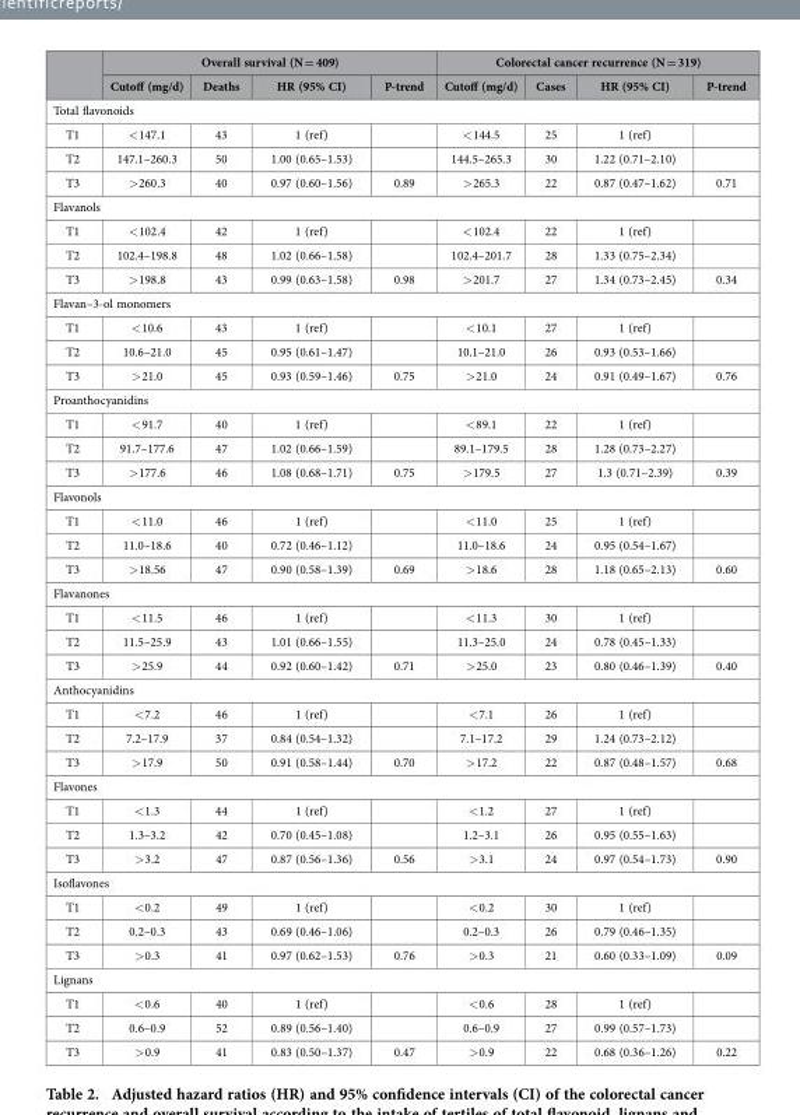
<table><thead><tr><td rowspan="2"></td><td colspan="4">Overall survival (N = 409)</td><td colspan="4">Colorectal cancer recurrence (N = 319)</td></tr><tr><td>Cutoff (mg/d)</td><td>Deaths</td><td>HR (95% CI)</td><td>P-trend</td><td>Cutoff (mg/d)</td><td>Cases</td><td>HR (95% CI)</td><td>P-trend</td></tr></thead><tbody><tr><td colspan="9">Total flavonoids</td></tr><tr><td>T1</td><td>&lt; 147.1</td><td>43</td><td>1 (ref)</td><td></td><td>&lt; 144.5</td><td>25</td><td>1 (ref)</td><td></td></tr><tr><td>T2</td><td>147.1–260.3</td><td>50</td><td>1.00 (0.65–1.53)</td><td></td><td>144.5–265.3</td><td>30</td><td>1.22 (0.71–2.10)</td><td></td></tr><tr><td>T3</td><td>&gt; 260.3</td><td>40</td><td>0.97 (0.60–1.56)</td><td>0.89</td><td>&gt; 265.3</td><td>22</td><td>0.87 (0.47–1.62)</td><td>0.71</td></tr><tr><td colspan="9">Flavanols</td></tr><tr><td>T1</td><td>&lt; 102.4</td><td>42</td><td>1 (ref)</td><td></td><td>&lt; 102.4</td><td>22</td><td>1 (ref)</td><td></td></tr><tr><td>T2</td><td>102.4–198.8</td><td>48</td><td>1.02 (0.66–1.58)</td><td></td><td>102.4–201.7</td><td>28</td><td>1.33 (0.75–2.34)</td><td></td></tr><tr><td>T3</td><td>&gt; 198.8</td><td>43</td><td>0.99 (0.63–1.58)</td><td>0.98</td><td>&gt; 201.7</td><td>27</td><td>1.34 (0.73–2.45)</td><td>0.34</td></tr><tr><td colspan="9">Flavan–3-ol monomers</td></tr><tr><td>T1</td><td>&lt; 10.6</td><td>43</td><td>1 (ref)</td><td></td><td>&lt; 10.1</td><td>27</td><td>1 (ref)</td><td></td></tr><tr><td>T2</td><td>10.6–21.0</td><td>45</td><td>0.95 (0.61–1.47)</td><td></td><td>10.1–21.0</td><td>26</td><td>0.93 (0.53–1.66)</td><td></td></tr><tr><td>T3</td><td>&gt; 21.0</td><td>45</td><td>0.93 (0.59–1.46)</td><td>0.75</td><td>&gt; 21.0</td><td>24</td><td>0.91 (0.49–1.67)</td><td>0.76</td></tr><tr><td colspan="9">Proanthocyanidins</td></tr><tr><td>T1</td><td>&lt; 91.7</td><td>40</td><td>1 (ref)</td><td></td><td>&lt; 89.1</td><td>22</td><td>1 (ref)</td><td></td></tr><tr><td>T2</td><td>91.7–177.6</td><td>47</td><td>1.02 (0.66–1.59)</td><td></td><td>89.1–179.5</td><td>28</td><td>1.28 (0.73–2.27)</td><td></td></tr><tr><td>T3</td><td>&gt; 177.6</td><td>46</td><td>1.08 (0.68–1.71)</td><td>0.75</td><td>&gt; 179.5</td><td>27</td><td>1.3 (0.71–2.39)</td><td>0.39</td></tr><tr><td colspan="9">Flavonols</td></tr><tr><td>T1</td><td>&lt; 11.0</td><td>46</td><td>1 (ref)</td><td></td><td>&lt; 11.0</td><td>25</td><td>1 (ref)</td><td></td></tr><tr><td>T2</td><td>11.0–18.6</td><td>40</td><td>0.72 (0.46–1.12)</td><td></td><td>11.0–18.6</td><td>24</td><td>0.95 (0.54–1.67)</td><td></td></tr><tr><td>T3</td><td>&gt; 18.56</td><td>47</td><td>0.90 (0.58–1.39)</td><td>0.69</td><td>&gt; 18.6</td><td>28</td><td>1.18 (0.65–2.13)</td><td>0.60</td></tr><tr><td colspan="9">Flavanones</td></tr><tr><td>T1</td><td>&lt; 11.5</td><td>46</td><td>1 (ref)</td><td></td><td>&lt; 11.3</td><td>30</td><td>1 (ref)</td><td></td></tr><tr><td>T2</td><td>11.5–25.9</td><td>43</td><td>1.01 (0.66–1.55)</td><td></td><td>11.3–25.0</td><td>24</td><td>0.78 (0.45–1.33)</td><td></td></tr><tr><td>T3</td><td>&gt; 25.9</td><td>44</td><td>0.92 (0.60–1.42)</td><td>0.71</td><td>&gt; 25.0</td><td>23</td><td>0.80 (0.46–1.39)</td><td>0.40</td></tr><tr><td colspan="9">Anthocyanidins</td></tr><tr><td>T1</td><td>&lt; 7.2</td><td>46</td><td>1 (ref)</td><td></td><td>&lt; 7.1</td><td>26</td><td>1 (ref)</td><td></td></tr><tr><td>T2</td><td>7.2–17.9</td><td>37</td><td>0.84 (0.54–1.32)</td><td></td><td>7.1–17.2</td><td>29</td><td>1.24 (0.73–2.12)</td><td></td></tr><tr><td>T3</td><td>&gt; 17.9</td><td>50</td><td>0.91 (0.58–1.44)</td><td>0.70</td><td>&gt; 17.2</td><td>22</td><td>0.87 (0.48–1.57)</td><td>0.68</td></tr><tr><td colspan="9">Flavones</td></tr><tr><td>T1</td><td>&lt; 1.3</td><td>44</td><td>1 (ref)</td><td></td><td>&lt; 1.2</td><td>27</td><td>1 (ref)</td><td></td></tr><tr><td>T2</td><td>1.3–3.2</td><td>42</td><td>0.70 (0.45–1.08)</td><td></td><td>1.2–3.1</td><td>26</td><td>0.95 (0.55–1.63)</td><td></td></tr><tr><td>T3</td><td>&gt; 3.2</td><td>47</td><td>0.87 (0.56–1.36)</td><td>0.56</td><td>&gt; 3.1</td><td>24</td><td>0.97 (0.54–1.73)</td><td>0.90</td></tr><tr><td colspan="9">Isoflavones</td></tr><tr><td>T1</td><td>&lt; 0.2</td><td>49</td><td>1 (ref)</td><td></td><td>&lt; 0.2</td><td>30</td><td>1 (ref)</td><td></td></tr><tr><td>T2</td><td>0.2–0.3</td><td>43</td><td>0.69 (0.46–1.06)</td><td></td><td>0.2–0.3</td><td>26</td><td>0.79 (0.46–1.35)</td><td></td></tr><tr><td>T3</td><td>&gt; 0.3</td><td>41</td><td>0.97 (0.62–1.53)</td><td>0.76</td><td>&gt; 0.3</td><td>21</td><td>0.60 (0.33–1.09)</td><td>0.09</td></tr><tr><td colspan="9">Lignans</td></tr><tr><td>T1</td><td>&lt; 0.6</td><td>40</td><td>1 (ref)</td><td></td><td>&lt; 0.6</td><td>28</td><td>1 (ref)</td><td></td></tr><tr><td>T2</td><td>0.6–0.9</td><td>52</td><td>0.89 (0.56–1.40)</td><td></td><td>0.6–0.9</td><td>27</td><td>0.99 (0.57–1.73)</td><td></td></tr><tr><td>T3</td><td>&gt; 0.9</td><td>41</td><td>0.83 (0.50–1.37)</td><td>0.47</td><td>&gt; 0.9</td><td>22</td><td>0.68 (0.36–1.26)</td><td>0.22</td></tr></tbody></table>